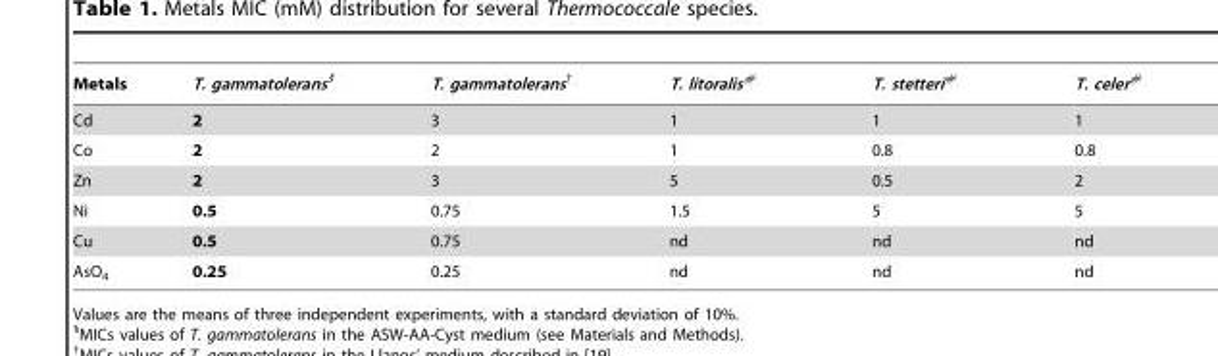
<table><thead><tr><td>Metals</td><td>T. gammatolerans§</td><td>T. gammatolerans†</td><td>T. litoralis<sup>#</sup></td><td>T. stetteri<sup>#</sup></td><td>T. celer<sup>#</sup></td></tr></thead><tbody><tr><td>Cd</td><td>2</td><td>3</td><td>1</td><td>1</td><td>1</td></tr><tr><td>Co</td><td>2</td><td>2</td><td>1</td><td>0.8</td><td>0.8</td></tr><tr><td>Zn</td><td>2</td><td>3</td><td>5</td><td>0.5</td><td>2</td></tr><tr><td>Ni</td><td>0.5</td><td>0.75</td><td>1.5</td><td>5</td><td>5</td></tr><tr><td>Cu</td><td>0.5</td><td>0.75</td><td>nd</td><td>nd</td><td>nd</td></tr><tr><td>AsO<sub>4</sub></td><td>0.25</td><td>0.25</td><td>nd</td><td>nd</td><td>nd</td></tr></tbody></table>